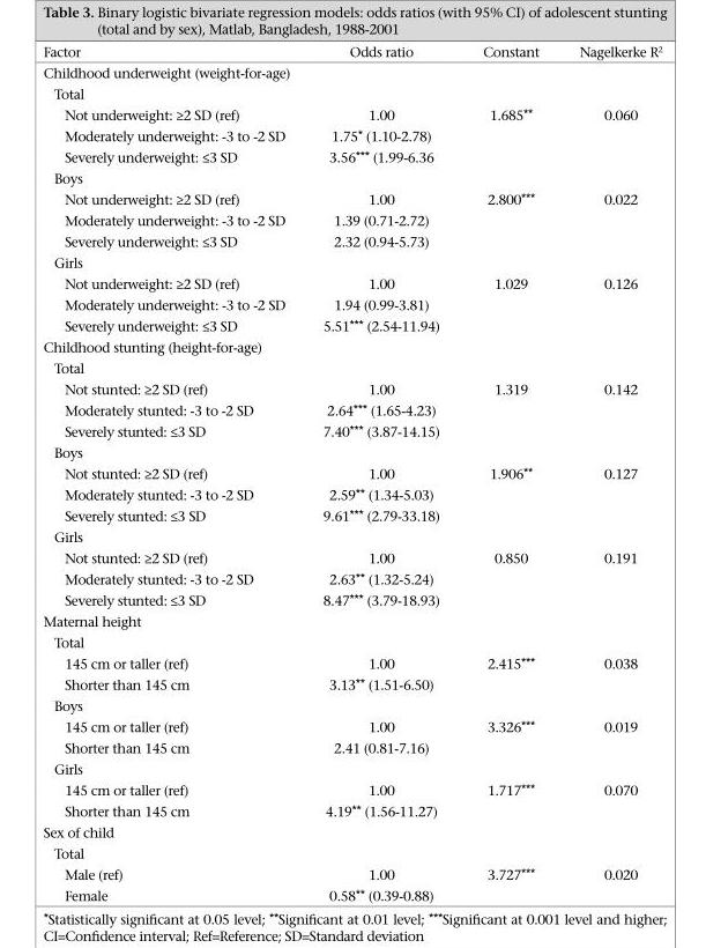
<table><thead><tr><td>Factor</td><td>Odds ratio</td><td>Constant</td><td>Nagelkerke R<sup>2</sup></td></tr></thead><tbody><tr><td colspan="4">Childhood underweight (weight-for-age)</td></tr><tr><td colspan="4">Total</td></tr><tr><td>Not underweight: ≥2 SD (ref)</td><td>1.00</td><td>1.685**</td><td>0.060</td></tr><tr><td>Moderately underweight: -3 to -2 SD</td><td>1.75* (1.10-2.78)</td><td></td><td></td></tr><tr><td>Severely underweight: ≤3 SD</td><td>3.56*** (1.99-6.36</td><td></td><td></td></tr><tr><td colspan="4">Boys</td></tr><tr><td>Not underweight: ≥2 SD (ref)</td><td>1.00</td><td>2.800***</td><td>0.022</td></tr><tr><td>Moderately underweight: -3 to -2 SD</td><td>1.39 (0.71-2.72)</td><td></td><td></td></tr><tr><td>Severely underweight: ≤3 SD</td><td>2.32 (0.94-5.73)</td><td></td><td></td></tr><tr><td colspan="4">Girls</td></tr><tr><td>Not underweight: ≥2 SD (ref)</td><td>1.00</td><td>1.029</td><td>0.126</td></tr><tr><td>Moderately underweight: -3 to -2 SD</td><td>1.94 (0.99-3.81)</td><td></td><td></td></tr><tr><td>Severely underweight: ≤3 SD</td><td>5.51*** (2.54-11.94)</td><td></td><td></td></tr><tr><td colspan="4">Childhood stunting (height-for-age)</td></tr><tr><td colspan="4">Total</td></tr><tr><td>Not stunted: ≥2 SD (ref)</td><td>1.00</td><td>1.319</td><td>0.142</td></tr><tr><td>Moderately stunted: -3 to -2 SD</td><td>2.64*** (1.65-4.23)</td><td></td><td></td></tr><tr><td>Severely stunted: ≤3 SD</td><td>7.40*** (3.87-14.15)</td><td></td><td></td></tr><tr><td colspan="4">Boys</td></tr><tr><td>Not stunted: ≥2 SD (ref)</td><td>1.00</td><td>1.906**</td><td>0.127</td></tr><tr><td>Moderately stunted: -3 to -2 SD</td><td>2.59** (1.34-5.03)</td><td></td><td></td></tr><tr><td>Severely stunted: ≤3 SD</td><td>9.61*** (2.79-33.18)</td><td></td><td></td></tr><tr><td colspan="4">Girls</td></tr><tr><td>Not stunted: ≥2 SD (ref)</td><td>1.00</td><td>0.850</td><td>0.191</td></tr><tr><td>Moderately stunted: -3 to -2 SD</td><td>2.63** (1.32-5.24)</td><td></td><td></td></tr><tr><td>Severely stunted: ≤3 SD</td><td>8.47*** (3.79-18.93)</td><td></td><td></td></tr><tr><td colspan="4">Maternal height</td></tr><tr><td colspan="4">Total</td></tr><tr><td>145 cm or taller (ref)</td><td>1.00</td><td>2.415***</td><td>0.038</td></tr><tr><td>Shorter than 145 cm</td><td>3.13** (1.51-6.50)</td><td></td><td></td></tr><tr><td colspan="4">Boys</td></tr><tr><td>145 cm or taller (ref)</td><td>1.00</td><td>3.326***</td><td>0.019</td></tr><tr><td>Shorter than 145 cm</td><td>2.41 (0.81-7.16)</td><td></td><td></td></tr><tr><td colspan="4">Girls</td></tr><tr><td>145 cm or taller (ref)</td><td>1.00</td><td>1.717***</td><td>0.070</td></tr><tr><td>Shorter than 145 cm</td><td>4.19** (1.56-11.27)</td><td></td><td></td></tr><tr><td colspan="4">Sex of child</td></tr><tr><td colspan="4">Total</td></tr><tr><td>Male (ref)</td><td>1.00</td><td>3.727***</td><td>0.020</td></tr><tr><td>Female</td><td>0.58** (0.39-0.88)</td><td></td><td></td></tr></tbody></table>